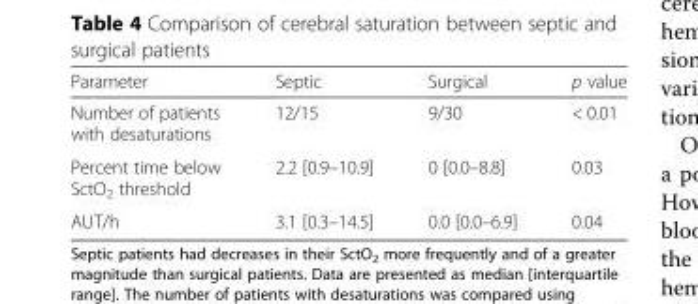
<table><thead><tr><td>Parameter</td><td>Septic</td><td>Surgical</td><td>p value</td></tr></thead><tbody><tr><td>Number of patients with desaturations</td><td>12/15</td><td>9/30</td><td>&lt; 0.01</td></tr><tr><td>Percent time below SctO<sub>2</sub> threshold</td><td>2.2 [0.9–10.9]</td><td>0 [0.0–8.8]</td><td>0.03</td></tr><tr><td>AUT/h</td><td>3.1 [0.3–14.5]</td><td>0.0 [0.0–6.9]</td><td>0.04</td></tr></tbody></table>